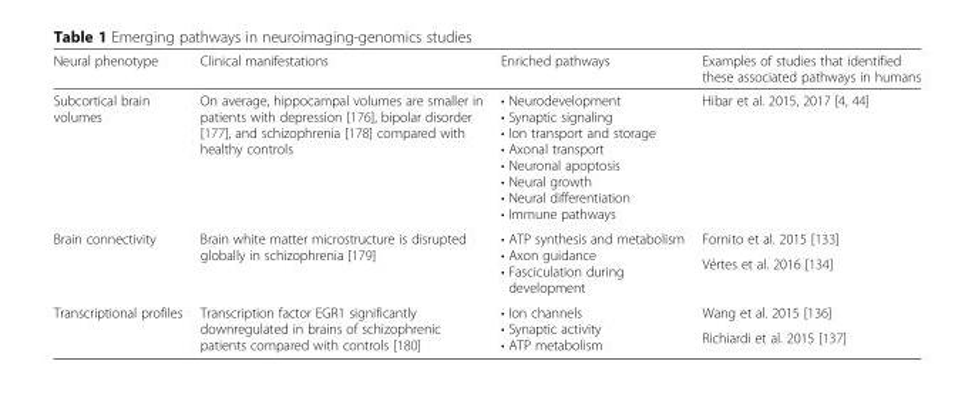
<table><thead><tr><td>Neural phenotype</td><td>Clinical manifestations</td><td>Enriched pathways</td><td>Examples of studies that identified these associated pathways in humans</td></tr></thead><tbody><tr><td>Subcortical brain volumes</td><td>On average, hippocampal volumes are smaller in patients with depression [176], bipolar disorder [177], and schizophrenia [178] compared with healthy controls</td><td>• Neurodevelopment • Synaptic signaling • Ion transport and storage • Axonal transport • Neuronal apoptosis • Neural growth • Neural differentiation • Immune pathways</td><td>Hibar et al. 2015, 2017 [4, 44]</td></tr><tr><td rowspan="2">Brain connectivity</td><td rowspan="2">Brain white matter microstructure is disrupted globally in schizophrenia [179]</td><td rowspan="2">• ATP synthesis and metabolism • Axon guidance • Fasciculation during development</td><td>Fornito et al. 2015 [133]</td></tr><tr><td>Vértes et al. 2016 [134]</td></tr><tr><td rowspan="2">Transcriptional profiles</td><td rowspan="2">Transcription factor EGR1 significantly downregulated in brains of schizophrenic patients compared with controls [180]</td><td rowspan="2">• Ion channels • Synaptic activity • ATP metabolism</td><td>Wang et al. 2015 [136]</td></tr><tr><td>Richiardi et al. 2015 [137]</td></tr></tbody></table>